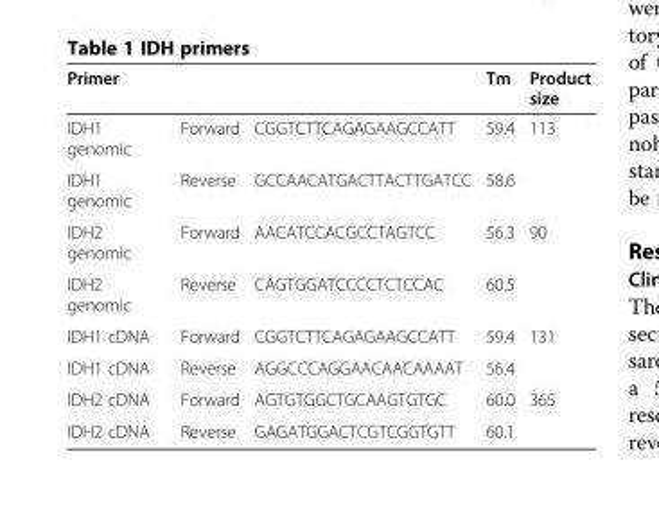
<table><thead><tr><td>Primer</td><td></td><td></td><td>Tm</td><td>Product size</td></tr></thead><tbody><tr><td>IDH1 genomic</td><td>Forward</td><td>CGGTCTTCAGAGAAGCCATT</td><td>59.4</td><td>113</td></tr><tr><td>IDH1 genomic</td><td>Reverse</td><td>GCCAACATGACTTACTTGATCC</td><td>58.6</td><td></td></tr><tr><td>IDH2 genomic</td><td>Forward</td><td>AACATCCACGCCTAGTCC</td><td>56.3</td><td>90</td></tr><tr><td>IDH2 genomic</td><td>Reverse</td><td>CAGTGGATCCCCTCTCCAC</td><td>60.5</td><td></td></tr><tr><td>IDH1 cDNA</td><td>Forward</td><td>CGGTCTTCAGAGAAGCCATT</td><td>59.4</td><td>131</td></tr><tr><td>IDH1 cDNA</td><td>Reverse</td><td>AGGCCCAGGAACAACAAAAT</td><td>56.4</td><td></td></tr><tr><td>IDH2 cDNA</td><td>Forward</td><td>AGTGTGGCTGCAAGTGTGC</td><td>60.0</td><td>365</td></tr><tr><td>IDH2 cDNA</td><td>Reverse</td><td>GAGATGGACTCGTCGGTGTT</td><td>60.1</td><td></td></tr></tbody></table>